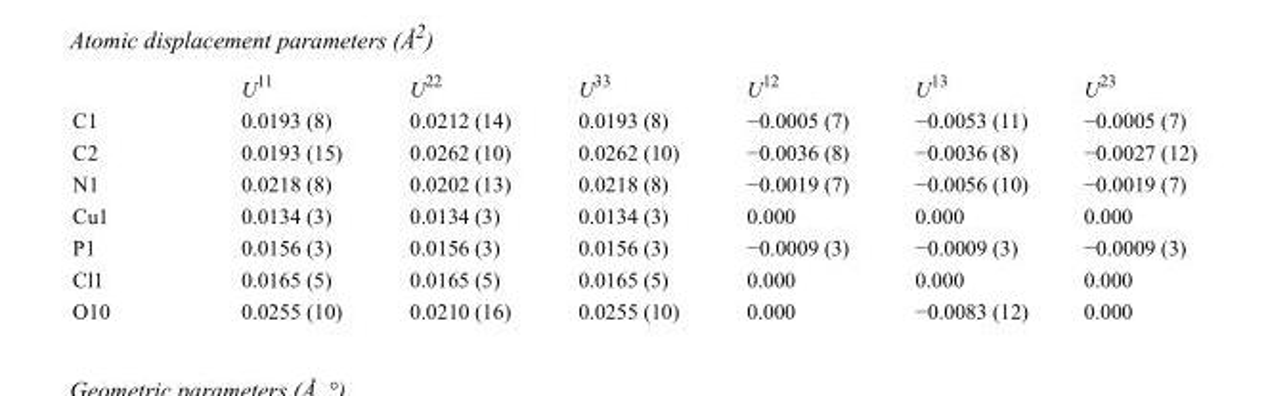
<table><thead><tr><td></td><td>U<sup>11</sup></td><td>U<sup>22</sup></td><td>U<sup>33</sup></td><td>U<sup>12</sup></td><td>U<sup>13</sup></td><td>U<sup>23</sup></td></tr></thead><tbody><tr><td>C1</td><td>0.0193 (8)</td><td>0.0212 (14)</td><td>0.0193 (8)</td><td>−0.0005 (7)</td><td>−0.0053 (11)</td><td>−0.0005 (7)</td></tr><tr><td>C2</td><td>0.0193 (15)</td><td>0.0262 (10)</td><td>0.0262 (10)</td><td>−0.0036 (8)</td><td>−0.0036 (8)</td><td>−0.0027 (12)</td></tr><tr><td>N1</td><td>0.0218 (8)</td><td>0.0202 (13)</td><td>0.0218 (8)</td><td>−0.0019 (7)</td><td>−0.0056 (10)</td><td>−0.0019 (7)</td></tr><tr><td>Cu1</td><td>0.0134 (3)</td><td>0.0134 (3)</td><td>0.0134 (3)</td><td>0.000</td><td>0.000</td><td>0.000</td></tr><tr><td>P1</td><td>0.0156 (3)</td><td>0.0156 (3)</td><td>0.0156 (3)</td><td>−0.0009 (3)</td><td>−0.0009 (3)</td><td>−0.0009 (3)</td></tr><tr><td>Cl1</td><td>0.0165 (5)</td><td>0.0165 (5)</td><td>0.0165 (5)</td><td>0.000</td><td>0.000</td><td>0.000</td></tr><tr><td>O10</td><td>0.0255 (10)</td><td>0.0210 (16)</td><td>0.0255 (10)</td><td>0.000</td><td>−0.0083 (12)</td><td>0.000</td></tr></tbody></table>